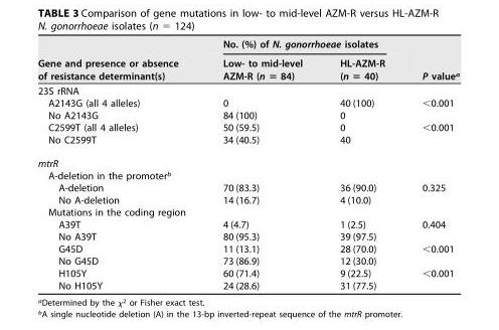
<table><thead><tr><td rowspan="2">Gene and presence or absence of resistance determinant(s)</td><td colspan="2">No. (%) of N. gonorrhoeae isolates</td><td rowspan="2">P value<sup>a</sup></td></tr><tr><td>Low- to mid-level AZM-R (n = 84)</td><td>HL-AZM-R (n = 40)</td></tr></thead><tbody><tr><td colspan="4">23S rRNA</td></tr><tr><td>A2143G (all 4 alleles)</td><td>0</td><td>40 (100)</td><td rowspan="2">&lt;0.001</td></tr><tr><td>No A2143G</td><td>84 (100)</td><td>0</td></tr><tr><td>C2599T (all 4 alleles)</td><td>50 (59.5)</td><td>0</td><td rowspan="2">&lt;0.001</td></tr><tr><td>No C2599T</td><td>34 (40.5)</td><td>40</td></tr><tr><td colspan="4">mtrR</td></tr><tr><td colspan="4">A-deletion in the promoter<sup>b</sup></td></tr><tr><td>A-deletion</td><td>70 (83.3)</td><td>36 (90.0)</td><td rowspan="2">0.325</td></tr><tr><td>No A-deletion</td><td>14 (16.7)</td><td>4 (10.0)</td></tr><tr><td colspan="4">Mutations in the coding region</td></tr><tr><td>A39T</td><td>4 (4.7)</td><td>1 (2.5)</td><td rowspan="2">0.404</td></tr><tr><td>No A39T</td><td>80 (95.3)</td><td>39 (97.5)</td></tr><tr><td>G45D</td><td>11 (13.1)</td><td>28 (70.0)</td><td rowspan="2">&lt;0.001</td></tr><tr><td>No G45D</td><td>73 (86.9)</td><td>12 (30.0)</td></tr><tr><td>H105Y</td><td>60 (71.4)</td><td>9 (22.5)</td><td rowspan="2">&lt;0.001</td></tr><tr><td>No H105Y</td><td>24 (28.6)</td><td>31 (77.5)</td></tr></tbody></table>